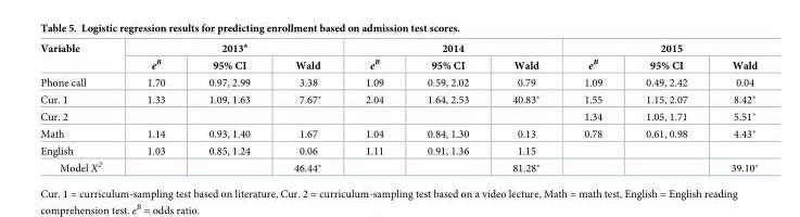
<table><thead><tr><td rowspan="2">Variable</td><td colspan="3">2013<sup>a</sup></td><td colspan="3">2014</td><td colspan="3">2015</td></tr><tr><td>e<sup>B</sup></td><td>95% CI</td><td>Wald</td><td>e<sup>B</sup></td><td>95% CI</td><td>Wald</td><td>e<sup>B</sup></td><td>95% CI</td><td>Wald</td></tr></thead><tbody><tr><td>Phone call</td><td>1.70</td><td>0.97, 2.99</td><td>3.38</td><td>1.09</td><td>0.59, 2.02</td><td>0.79</td><td>1.09</td><td>0.49, 2.42</td><td>0.04</td></tr><tr><td>Cur. 1</td><td>1.33</td><td>1.09, 1.63</td><td>7.67*</td><td>2.04</td><td>1.64, 2.53</td><td>40.83*</td><td>1.55</td><td>1.15, 2.07</td><td>8.42*</td></tr><tr><td>Cur. 2</td><td></td><td></td><td></td><td></td><td></td><td></td><td>1.34</td><td>1.05, 1.71</td><td>5.51*</td></tr><tr><td>Math</td><td>1.14</td><td>0.93, 1.40</td><td>1.67</td><td>1.04</td><td>0.84, 1.30</td><td>0.13</td><td>0.78</td><td>0.61, 0.98</td><td>4.43*</td></tr><tr><td>English</td><td>1.03</td><td>0.85, 1.24</td><td>0.06</td><td>1.11</td><td>0.91, 1.36</td><td>1.15</td><td></td><td></td><td></td></tr><tr><td>Model X<sup>2</sup></td><td></td><td></td><td>46.44*</td><td></td><td></td><td>81.28*</td><td></td><td></td><td>39.10*</td></tr></tbody></table>